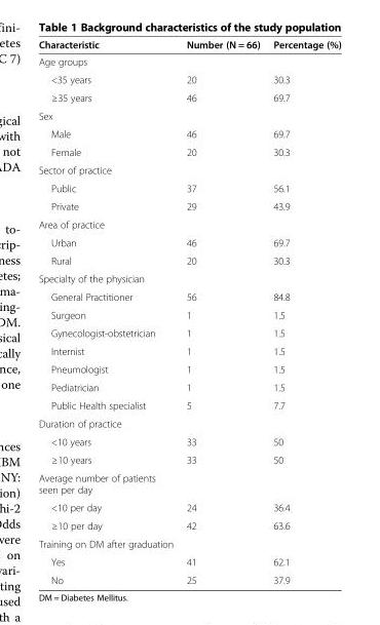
<table><thead><tr><td>Characteristic</td><td>Number (N = 66)</td><td>Percentage (%)</td></tr></thead><tbody><tr><td colspan="3">Age groups</td></tr><tr><td>&lt;35 years</td><td>20</td><td>30.3</td></tr><tr><td>≥35 years</td><td>46</td><td>69.7</td></tr><tr><td colspan="3">Sex</td></tr><tr><td>Male</td><td>46</td><td>69.7</td></tr><tr><td>Female</td><td>20</td><td>30.3</td></tr><tr><td colspan="3">Sector of practice</td></tr><tr><td>Public</td><td>37</td><td>56.1</td></tr><tr><td>Private</td><td>29</td><td>43.9</td></tr><tr><td colspan="3">Area of practice</td></tr><tr><td>Urban</td><td>46</td><td>69.7</td></tr><tr><td>Rural</td><td>20</td><td>30.3</td></tr><tr><td colspan="3">Specialty of the physician</td></tr><tr><td>General Practitioner</td><td>56</td><td>84.8</td></tr><tr><td>Surgeon</td><td>1</td><td>1.5</td></tr><tr><td>Gynecologist-obstetrician</td><td>1</td><td>1.5</td></tr><tr><td>Internist</td><td>1</td><td>1.5</td></tr><tr><td>Pneumologist</td><td>1</td><td>1.5</td></tr><tr><td>Pediatrician</td><td>1</td><td>1.5</td></tr><tr><td>Public Health specialist</td><td>5</td><td>7.7</td></tr><tr><td colspan="3">Duration of practice</td></tr><tr><td>&lt;10 years</td><td>33</td><td>50</td></tr><tr><td>≥10 years</td><td>33</td><td>50</td></tr><tr><td colspan="3">Average number of patients seen per day</td></tr><tr><td>&lt;10 per day</td><td>24</td><td>36.4</td></tr><tr><td>≥10 per day</td><td>42</td><td>63.6</td></tr><tr><td colspan="3">Training on DM after graduation</td></tr><tr><td>Yes</td><td>41</td><td>62.1</td></tr><tr><td>No</td><td>25</td><td>37.9</td></tr></tbody></table>